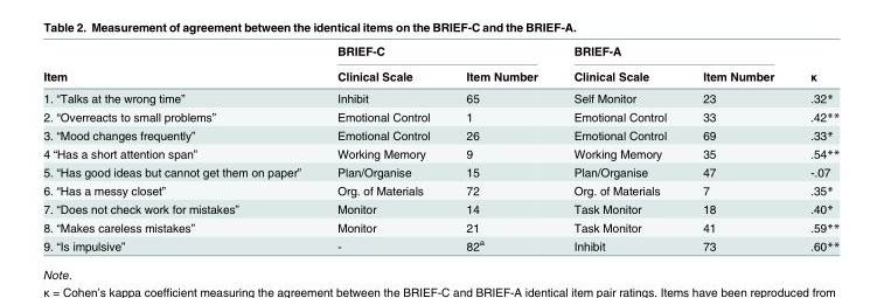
<table><thead><tr><td rowspan="2">Item</td><td colspan="2">BRIEF-C</td><td colspan="2">BRIEF-A</td><td rowspan="2">κ</td></tr><tr><td>Clinical Scale</td><td>Item Number</td><td>Clinical Scale</td><td>Item Number</td></tr></thead><tbody><tr><td>1. “Talks at the wrong time”</td><td>Inhibit</td><td>65</td><td>Self Monitor</td><td>23</td><td>.32*</td></tr><tr><td>2. “Overreacts to small problems”</td><td>Emotional Control</td><td>1</td><td>Emotional Control</td><td>33</td><td>.42**</td></tr><tr><td>3. “Mood changes frequently”</td><td>Emotional Control</td><td>26</td><td>Emotional Control</td><td>69</td><td>.33*</td></tr><tr><td>4 “Has a short attention span”</td><td>Working Memory</td><td>9</td><td>Working Memory</td><td>35</td><td>.54**</td></tr><tr><td>5. “Has good ideas but cannot get them on paper”</td><td>Plan/Organise</td><td>15</td><td>Plan/Organise</td><td>47</td><td>-.07</td></tr><tr><td>6. “Has a messy closet”</td><td>Org. of Materials</td><td>72</td><td>Org. of Materials</td><td>7</td><td>.35*</td></tr><tr><td>7. “Does not check work for mistakes”</td><td>Monitor</td><td>14</td><td>Task Monitor</td><td>18</td><td>.40*</td></tr><tr><td>8. “Makes careless mistakes”</td><td>Monitor</td><td>21</td><td>Task Monitor</td><td>41</td><td>.59**</td></tr><tr><td>9. “Is impulsive”</td><td>-</td><td>82<sup>a</sup></td><td>Inhibit</td><td>73</td><td>.60**</td></tr></tbody></table>